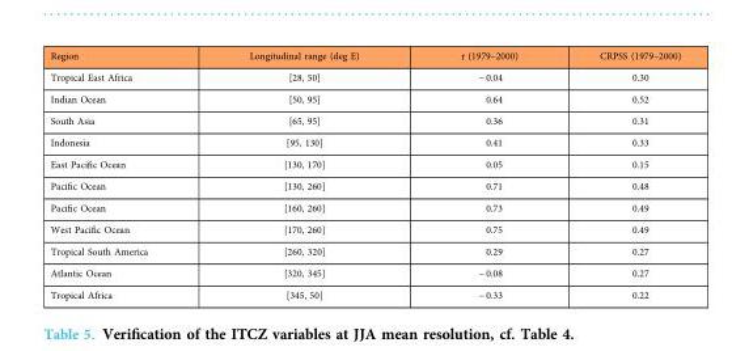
<table><thead><tr><td>Region</td><td>Longitudinal range (deg E)</td><td>r (1979–2000)</td><td>CRPSS (1979–2000)</td></tr></thead><tbody><tr><td>Tropical East Africa</td><td>[28, 50]</td><td>− 0.04</td><td>0.30</td></tr><tr><td>Indian Ocean</td><td>[50, 95]</td><td>0.64</td><td>0.52</td></tr><tr><td>South Asia</td><td>[65, 95]</td><td>0.36</td><td>0.31</td></tr><tr><td>Indonesia</td><td>[95, 130]</td><td>0.41</td><td>0.33</td></tr><tr><td>East Pacific Ocean</td><td>[130, 170]</td><td>0.05</td><td>0.15</td></tr><tr><td>Pacific Ocean</td><td>[130, 260]</td><td>0.71</td><td>0.48</td></tr><tr><td>Pacific Ocean</td><td>[160, 260]</td><td>0.73</td><td>0.49</td></tr><tr><td>West Pacific Ocean</td><td>[170, 260]</td><td>0.75</td><td>0.49</td></tr><tr><td>Tropical South America</td><td>[260, 320]</td><td>0.29</td><td>0.27</td></tr><tr><td>Atlantic Ocean</td><td>[320, 345]</td><td>− 0.08</td><td>0.27</td></tr><tr><td>Tropical Africa</td><td>[345, 50]</td><td>− 0.33</td><td>0.22</td></tr></tbody></table>